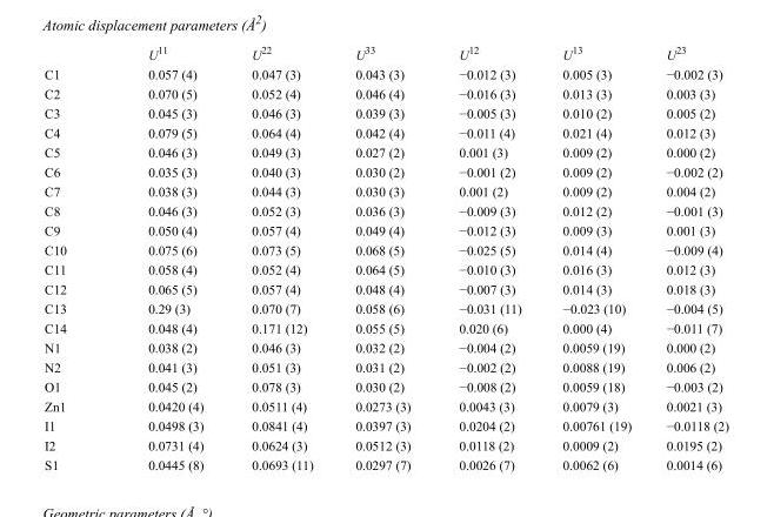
<table><thead><tr><td></td><td>U<sup>11</sup></td><td>U<sup>22</sup></td><td>U<sup>33</sup></td><td>U<sup>12</sup></td><td>U<sup>13</sup></td><td>U<sup>23</sup></td></tr></thead><tbody><tr><td>C1</td><td>0.057 (4)</td><td>0.047 (3)</td><td>0.043 (3)</td><td>−0.012 (3)</td><td>0.005 (3)</td><td>−0.002 (3)</td></tr><tr><td>C2</td><td>0.070 (5)</td><td>0.052 (4)</td><td>0.046 (4)</td><td>−0.016 (3)</td><td>0.013 (3)</td><td>0.003 (3)</td></tr><tr><td>C3</td><td>0.045 (3)</td><td>0.046 (3)</td><td>0.039 (3)</td><td>−0.005 (3)</td><td>0.010 (2)</td><td>0.005 (2)</td></tr><tr><td>C4</td><td>0.079 (5)</td><td>0.064 (4)</td><td>0.042 (4)</td><td>−0.011 (4)</td><td>0.021 (4)</td><td>0.012 (3)</td></tr><tr><td>C5</td><td>0.046 (3)</td><td>0.049 (3)</td><td>0.027 (2)</td><td>0.001 (3)</td><td>0.009 (2)</td><td>0.000 (2)</td></tr><tr><td>C6</td><td>0.035 (3)</td><td>0.040 (3)</td><td>0.030 (2)</td><td>−0.001 (2)</td><td>0.009 (2)</td><td>−0.002 (2)</td></tr><tr><td>C7</td><td>0.038 (3)</td><td>0.044 (3)</td><td>0.030 (3)</td><td>0.001 (2)</td><td>0.009 (2)</td><td>0.004 (2)</td></tr><tr><td>C8</td><td>0.046 (3)</td><td>0.052 (3)</td><td>0.036 (3)</td><td>−0.009 (3)</td><td>0.012 (2)</td><td>−0.001 (3)</td></tr><tr><td>C9</td><td>0.050 (4)</td><td>0.057 (4)</td><td>0.049 (4)</td><td>−0.012 (3)</td><td>0.009 (3)</td><td>0.001 (3)</td></tr><tr><td>C10</td><td>0.075 (6)</td><td>0.073 (5)</td><td>0.068 (5)</td><td>−0.025 (5)</td><td>0.014 (4)</td><td>−0.009 (4)</td></tr><tr><td>C11</td><td>0.058 (4)</td><td>0.052 (4)</td><td>0.064 (5)</td><td>−0.010 (3)</td><td>0.016 (3)</td><td>0.012 (3)</td></tr><tr><td>C12</td><td>0.065 (5)</td><td>0.057 (4)</td><td>0.048 (4)</td><td>−0.007 (3)</td><td>0.014 (3)</td><td>0.018 (3)</td></tr><tr><td>C13</td><td>0.29 (3)</td><td>0.070 (7)</td><td>0.058 (6)</td><td>−0.031 (11)</td><td>−0.023 (10)</td><td>−0.004 (5)</td></tr><tr><td>C14</td><td>0.048 (4)</td><td>0.171 (12)</td><td>0.055 (5)</td><td>0.020 (6)</td><td>0.000 (4)</td><td>−0.011 (7)</td></tr><tr><td>N1</td><td>0.038 (2)</td><td>0.046 (3)</td><td>0.032 (2)</td><td>−0.004 (2)</td><td>0.0059 (19)</td><td>0.000 (2)</td></tr><tr><td>N2</td><td>0.041 (3)</td><td>0.051 (3)</td><td>0.031 (2)</td><td>−0.002 (2)</td><td>0.0088 (19)</td><td>0.006 (2)</td></tr><tr><td>O1</td><td>0.045 (2)</td><td>0.078 (3)</td><td>0.030 (2)</td><td>−0.008 (2)</td><td>0.0059 (18)</td><td>−0.003 (2)</td></tr><tr><td>Zn1</td><td>0.0420 (4)</td><td>0.0511 (4)</td><td>0.0273 (3)</td><td>0.0043 (3)</td><td>0.0079 (3)</td><td>0.0021 (3)</td></tr><tr><td>I1</td><td>0.0498 (3)</td><td>0.0841 (4)</td><td>0.0397 (3)</td><td>0.0204 (2)</td><td>0.00761 (19)</td><td>−0.0118 (2)</td></tr><tr><td>I2</td><td>0.0731 (4)</td><td>0.0624 (3)</td><td>0.0512 (3)</td><td>0.0118 (2)</td><td>0.0009 (2)</td><td>0.0195 (2)</td></tr><tr><td>S1</td><td>0.0445 (8)</td><td>0.0693 (11)</td><td>0.0297 (7)</td><td>0.0026 (7)</td><td>0.0062 (6)</td><td>0.0014 (6)</td></tr></tbody></table>